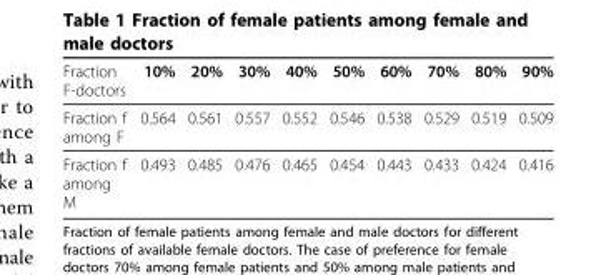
<table><thead><tr><td>Fraction F-doctors</td><td>10%</td><td>20%</td><td>30%</td><td>40%</td><td>50%</td><td>60%</td><td>70%</td><td>80%</td><td>90%</td></tr></thead><tbody><tr><td>Fraction f among F</td><td>0.564</td><td>0.561</td><td>0.557</td><td>0.552</td><td>0.546</td><td>0.538</td><td>0.529</td><td>0.519</td><td>0.509</td></tr><tr><td>Fraction f among M</td><td>0.493</td><td>0.485</td><td>0.476</td><td>0.465</td><td>0.454</td><td>0.443</td><td>0.433</td><td>0.424</td><td>0.416</td></tr></tbody></table>